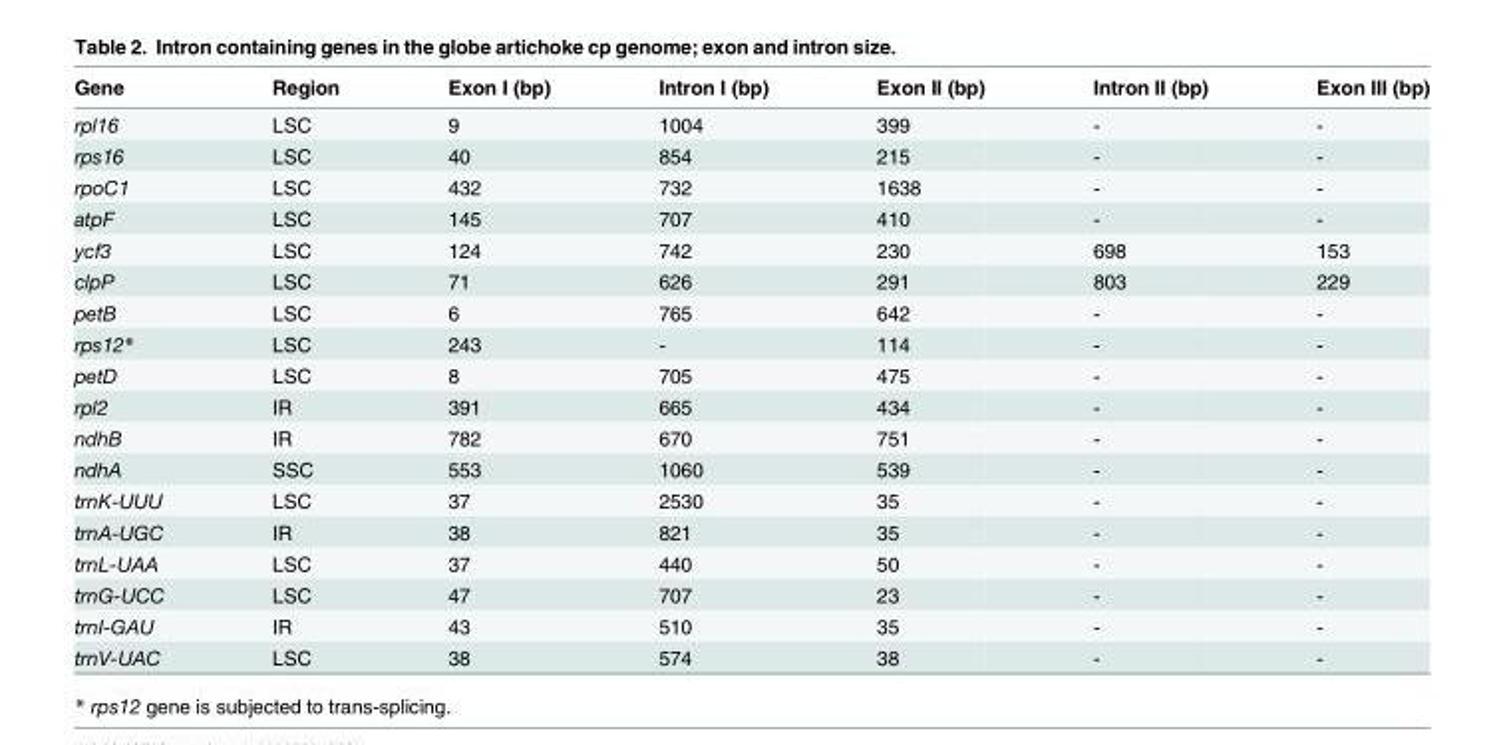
<table><thead><tr><td>Gene</td><td>Region</td><td>Exon I (bp)</td><td>Intron I (bp)</td><td>Exon II (bp)</td><td>Intron II (bp)</td><td>Exon III (bp)</td></tr></thead><tbody><tr><td>rpl16</td><td>LSC</td><td>9</td><td>1004</td><td>399</td><td>-</td><td>-</td></tr><tr><td>rps16</td><td>LSC</td><td>40</td><td>854</td><td>215</td><td>-</td><td>-</td></tr><tr><td>rpoC1</td><td>LSC</td><td>432</td><td>732</td><td>1638</td><td>-</td><td>-</td></tr><tr><td>atpF</td><td>LSC</td><td>145</td><td>707</td><td>410</td><td>-</td><td>-</td></tr><tr><td>ycf3</td><td>LSC</td><td>124</td><td>742</td><td>230</td><td>698</td><td>153</td></tr><tr><td>clpP</td><td>LSC</td><td>71</td><td>626</td><td>291</td><td>803</td><td>229</td></tr><tr><td>petB</td><td>LSC</td><td>6</td><td>765</td><td>642</td><td>-</td><td>-</td></tr><tr><td>rps12*</td><td>LSC</td><td>243</td><td>-</td><td>114</td><td>-</td><td>-</td></tr><tr><td>petD</td><td>LSC</td><td>8</td><td>705</td><td>475</td><td>-</td><td>-</td></tr><tr><td>rpl2</td><td>IR</td><td>391</td><td>665</td><td>434</td><td>-</td><td>-</td></tr><tr><td>ndhB</td><td>IR</td><td>782</td><td>670</td><td>751</td><td>-</td><td>-</td></tr><tr><td>ndhA</td><td>SSC</td><td>553</td><td>1060</td><td>539</td><td>-</td><td>-</td></tr><tr><td>trnK-UUU</td><td>LSC</td><td>37</td><td>2530</td><td>35</td><td>-</td><td>-</td></tr><tr><td>trnA-UGC</td><td>IR</td><td>38</td><td>821</td><td>35</td><td>-</td><td>-</td></tr><tr><td>trnL-UAA</td><td>LSC</td><td>37</td><td>440</td><td>50</td><td>-</td><td>-</td></tr><tr><td>trnG-UCC</td><td>LSC</td><td>47</td><td>707</td><td>23</td><td>-</td><td>-</td></tr><tr><td>trnI-GAU</td><td>IR</td><td>43</td><td>510</td><td>35</td><td>-</td><td>-</td></tr><tr><td>trnV-UAC</td><td>LSC</td><td>38</td><td>574</td><td>38</td><td>-</td><td>-</td></tr></tbody></table>